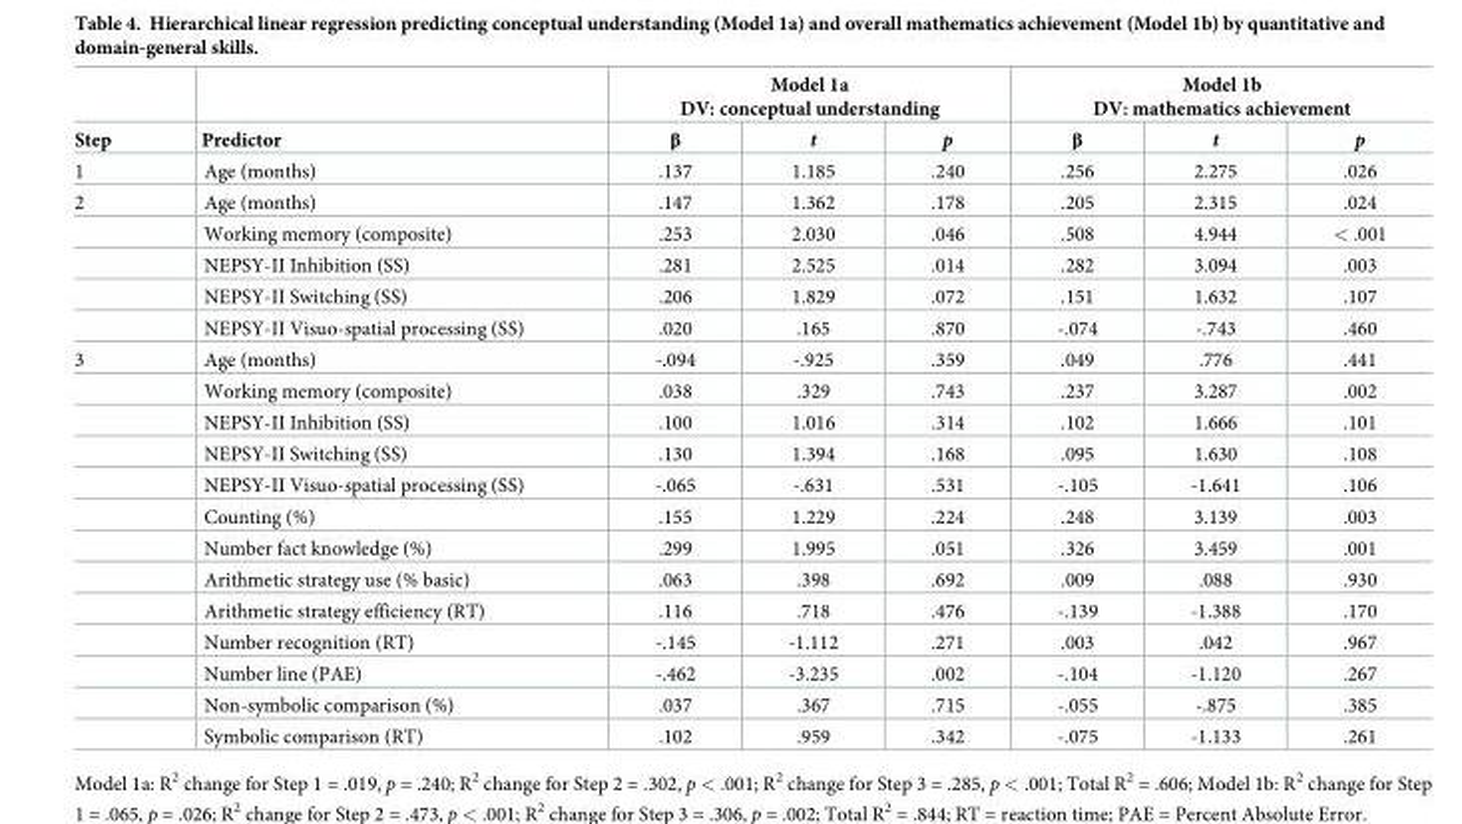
<table><thead><tr><td rowspan="2">Step</td><td rowspan="2">Predictor</td><td colspan="3">Model 1a DV: conceptual understanding</td><td colspan="3">Model 1b DV: mathematics achievement</td></tr><tr><td>β</td><td>t</td><td>p</td><td>β</td><td>t</td><td>p</td></tr></thead><tbody><tr><td>1</td><td>Age (months)</td><td>.137</td><td>1.185</td><td>.240</td><td>.256</td><td>2.275</td><td>.026</td></tr><tr><td rowspan="5">2</td><td>Age (months)</td><td>.147</td><td>1.362</td><td>.178</td><td>.205</td><td>2.315</td><td>.024</td></tr><tr><td>Working memory (composite)</td><td>.253</td><td>2.030</td><td>.046</td><td>.508</td><td>4.944</td><td>&lt; .001</td></tr><tr><td>NEPSY-II Inhibition (SS)</td><td>.281</td><td>2.525</td><td>.014</td><td>.282</td><td>3.094</td><td>.003</td></tr><tr><td>NEPSY-II Switching (SS)</td><td>.206</td><td>1.829</td><td>.072</td><td>.151</td><td>1.632</td><td>.107</td></tr><tr><td>NEPSY-II Visuo-spatial processing (SS)</td><td>.020</td><td>.165</td><td>.870</td><td>-.074</td><td>-.743</td><td>.460</td></tr><tr><td rowspan="13">3</td><td>Age (months)</td><td>-.094</td><td>-.925</td><td>.359</td><td>.049</td><td>.776</td><td>.441</td></tr><tr><td>Working memory (composite)</td><td>.038</td><td>.329</td><td>.743</td><td>.237</td><td>3.287</td><td>.002</td></tr><tr><td>NEPSY-II Inhibition (SS)</td><td>.100</td><td>1.016</td><td>.314</td><td>.102</td><td>1.666</td><td>.101</td></tr><tr><td>NEPSY-II Switching (SS)</td><td>.130</td><td>1.394</td><td>.168</td><td>.095</td><td>1.630</td><td>.108</td></tr><tr><td>NEPSY-II Visuo-spatial processing (SS)</td><td>-.065</td><td>-.631</td><td>.531</td><td>-.105</td><td>-1.641</td><td>.106</td></tr><tr><td>Counting (%)</td><td>.155</td><td>1.229</td><td>.224</td><td>.248</td><td>3.139</td><td>.003</td></tr><tr><td>Number fact knowledge (%)</td><td>.299</td><td>1.995</td><td>.051</td><td>.326</td><td>3.459</td><td>.001</td></tr><tr><td>Arithmetic strategy use (% basic)</td><td>.063</td><td>.398</td><td>.692</td><td>.009</td><td>.088</td><td>.930</td></tr><tr><td>Arithmetic strategy efficiency (RT)</td><td>.116</td><td>.718</td><td>.476</td><td>-.139</td><td>-1.388</td><td>.170</td></tr><tr><td>Number recognition (RT)</td><td>-.145</td><td>-1.112</td><td>.271</td><td>.003</td><td>.042</td><td>.967</td></tr><tr><td>Number line (PAE)</td><td>-.462</td><td>-3.235</td><td>.002</td><td>-.104</td><td>-1.120</td><td>.267</td></tr><tr><td>Non-symbolic comparison (%)</td><td>.037</td><td>.367</td><td>.715</td><td>-.055</td><td>-.875</td><td>.385</td></tr><tr><td>Symbolic comparison (RT)</td><td>.102</td><td>.959</td><td>.342</td><td>-.075</td><td>-1.133</td><td>.261</td></tr></tbody></table>